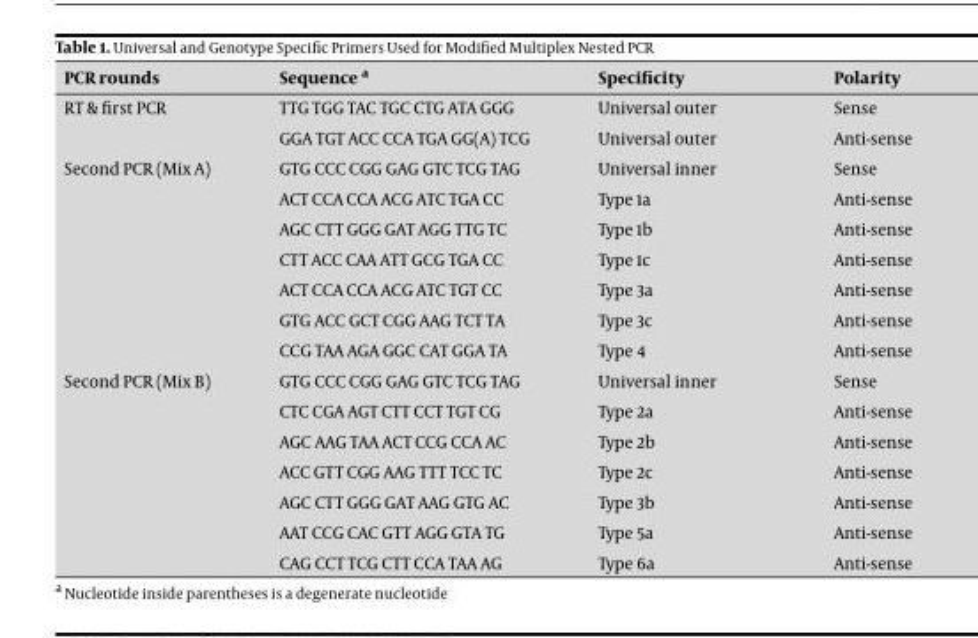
<table><thead><tr><td>PCR rounds</td><td>Sequence a</td><td>Specificity</td><td>Polarity</td></tr></thead><tbody><tr><td rowspan="2">RT &amp; first PCR</td><td>TTG TGG TAC TGC CTG ATA GGG</td><td>Universal outer</td><td>Sense</td></tr><tr><td>GGA TGT ACC CCA TGA GG(A) TCG</td><td>Universal outer</td><td>Anti-sense</td></tr><tr><td rowspan="7">Second PCR (Mix A)</td><td>GTG CCC CGG GAG GTC TCG TAG</td><td>Universal inner</td><td>Sense</td></tr><tr><td>ACT CCA CCA ACG ATC TGA CC</td><td>Type 1a</td><td>Anti-sense</td></tr><tr><td>AGC CTT GGG GAT AGG TTG TC</td><td>Type 1b</td><td>Anti-sense</td></tr><tr><td>CTT ACC CAA ATT GCG TGA CC</td><td>Type 1c</td><td>Anti-sense</td></tr><tr><td>ACT CCA CCA ACG ATC TGT CC</td><td>Type 3a</td><td>Anti-sense</td></tr><tr><td>GTG ACC GCT CGG AAG TCT TA</td><td>Type 3c</td><td>Anti-sense</td></tr><tr><td>CCG TAA AGA GGC CAT GGA TA</td><td>Type 4</td><td>Anti-sense</td></tr><tr><td rowspan="7">Second PCR (Mix B)</td><td>GTG CCC CGG GAG GTC TCG TAG</td><td>Universal inner</td><td>Sense</td></tr><tr><td>CTC CGA AGT CTT CCT TGT CG</td><td>Type 2a</td><td>Anti-sense</td></tr><tr><td>AGC AAG TAA ACT CCG CCA AC</td><td>Type 2b</td><td>Anti-sense</td></tr><tr><td>ACC GTT CGG AAG TTT TCC TC</td><td>Type 2c</td><td>Anti-sense</td></tr><tr><td>AGC CTT GGG GAT AAG GTG AC</td><td>Type 3b</td><td>Anti-sense</td></tr><tr><td>AAT CCG CAC GTT AGG GTA TG</td><td>Type 5a</td><td>Anti-sense</td></tr><tr><td>CAG CCT TCG CTT CCA TAA AG</td><td>Type 6a</td><td>Anti-sense</td></tr></tbody></table>